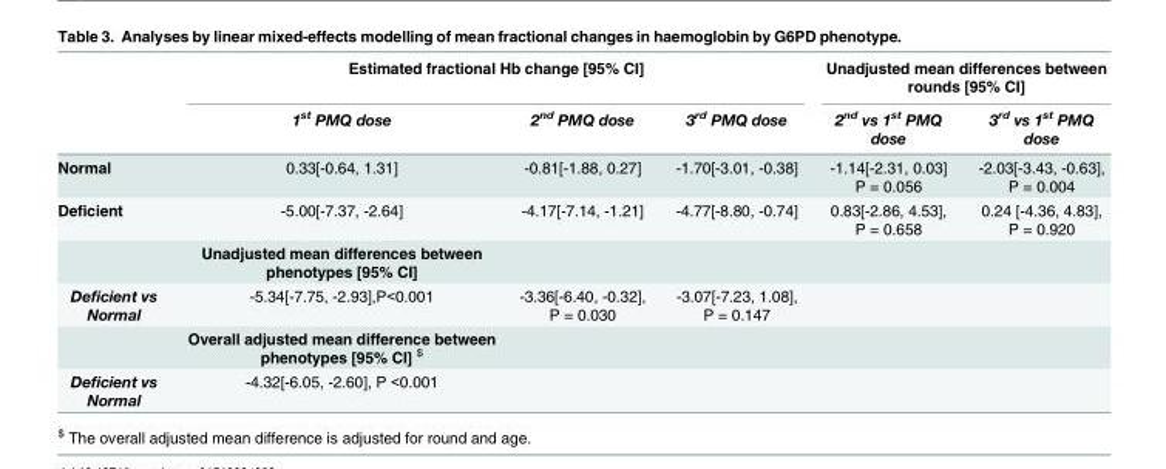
<table><thead><tr><td rowspan="2"></td><td colspan="3">Estimated fractional Hb change [95% CI]</td><td colspan="2">Unadjusted mean differences between rounds [95% CI]</td></tr><tr><td>1<sup>st</sup> PMQ dose</td><td>2<sup>nd</sup> PMQ dose</td><td>3<sup>rd</sup> PMQ dose</td><td>2<sup>nd</sup> vs 1<sup>st</sup> PMQ dose</td><td>3<sup>rd</sup> vs 1<sup>st</sup> PMQ dose</td></tr></thead><tbody><tr><td>Normal</td><td>0.33[-0.64, 1.31]</td><td>-0.81[-1.88, 0.27]</td><td>-1.70[-3.01, -0.38]</td><td>-1.14[-2.31, 0.03] P = 0.056</td><td>-2.03[-3.43, -0.63], P = 0.004</td></tr><tr><td rowspan="2">Deficient</td><td>-5.00[-7.37, -2.64]</td><td>-4.17[-7.14, -1.21]</td><td>-4.77[-8.80, -0.74]</td><td>0.83[-2.86, 4.53], P = 0.658</td><td>0.24 [-4.36, 4.83], P = 0.920</td></tr><tr><td>Unadjusted mean differences between phenotypes [95% CI]</td><td></td><td></td><td></td><td></td></tr><tr><td rowspan="2">Deficient vs Normal</td><td>-5.34[-7.75, -2.93],P&lt;0.001</td><td>-3.36[-6.40, -0.32], P = 0.030</td><td>-3.07[-7.23, 1.08], P = 0.147</td><td></td><td></td></tr><tr><td>Overall adjusted mean difference between phenotypes [95% CI] <sup>$</sup></td><td></td><td></td><td></td><td></td></tr><tr><td>Deficient vs Normal</td><td>-4.32[-6.05, -2.60], P &lt;0.001</td><td></td><td></td><td></td><td></td></tr></tbody></table>